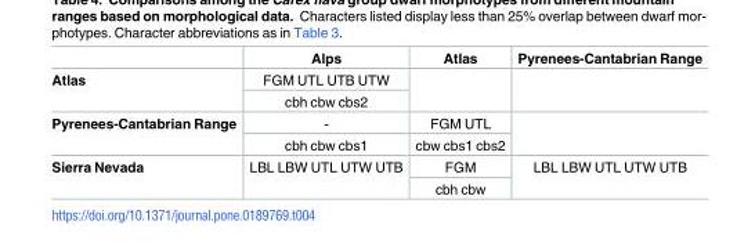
<table><thead><tr><td></td><td>Alps</td><td>Atlas</td><td>Pyrenees-Cantabrian Range</td></tr></thead><tbody><tr><td rowspan="2">Atlas</td><td>FGM UTL UTB UTW</td><td rowspan="2"></td><td rowspan="2"></td></tr><tr><td>cbh cbw cbs2</td></tr><tr><td rowspan="2">Pyrenees-Cantabrian Range</td><td>-</td><td>FGM UTL</td><td rowspan="2"></td></tr><tr><td>cbh cbw cbs1</td><td>cbw cbs1 cbs2</td></tr><tr><td rowspan="2">Sierra Nevada</td><td rowspan="2">LBL LBW UTL UTW UTB</td><td>FGM</td><td rowspan="2">LBL LBW UTL UTW UTB</td></tr><tr><td>cbh cbw</td></tr></tbody></table>